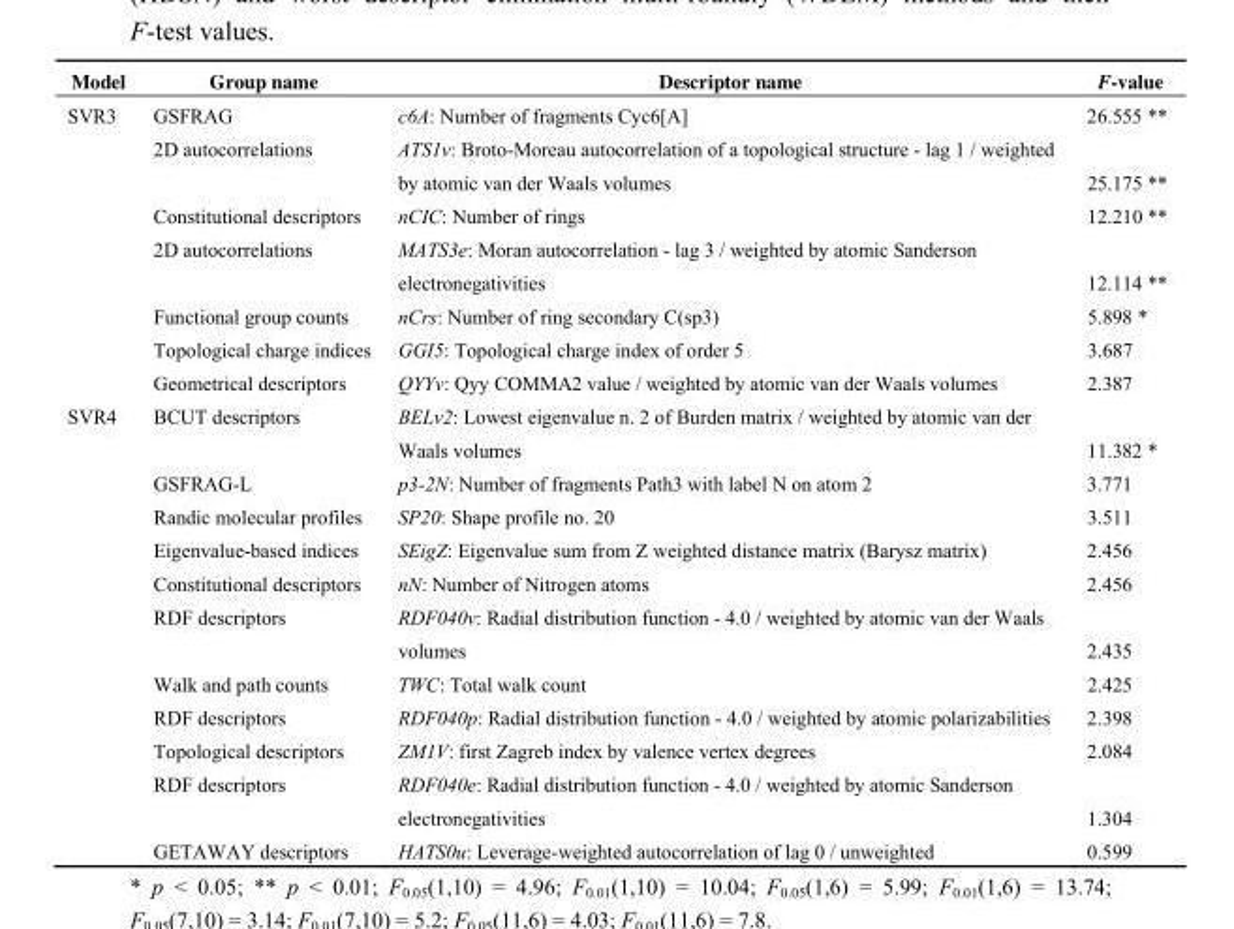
<table><thead><tr><td>Model</td><td>Group name</td><td>Descriptor name</td><td>F-value</td></tr></thead><tbody><tr><td rowspan="7">SVR3</td><td>GSFRAG</td><td>c6A: Number of fragments Cyc6[A]</td><td>26.555 **</td></tr><tr><td>2D autocorrelations</td><td>ATS1v: Broto-Moreau autocorrelation of a topological structure - lag 1 / weighted by atomic van der Waals volumes</td><td>25.175 **</td></tr><tr><td>Constitutional descriptors</td><td>nCIC: Number of rings</td><td>12.210 **</td></tr><tr><td>2D autocorrelations</td><td>MATS3e: Moran autocorrelation - lag 3 / weighted by atomic Sanderson electronegativities</td><td>12.114 **</td></tr><tr><td>Functional group counts</td><td>nCrs: Number of ring secondary C(sp3)</td><td>5.898 *</td></tr><tr><td>Topological charge indices</td><td>GGI5: Topological charge index of order 5</td><td>3.687</td></tr><tr><td>Geometrical descriptors</td><td>QYYv: Qyy COMMA2 value / weighted by atomic van der Waals volumes</td><td>2.387</td></tr><tr><td rowspan="11">SVR4</td><td>BCUT descriptors</td><td>BELv2: Lowest eigenvalue n. 2 of Burden matrix / weighted by atomic van der Waals volumes</td><td>11.382 *</td></tr><tr><td>GSFRAG-L</td><td>p3-2N: Number of fragments Path3 with label N on atom 2</td><td>3.771</td></tr><tr><td>Randic molecular profiles</td><td>SP20: Shape profile no. 20</td><td>3.511</td></tr><tr><td>Eigenvalue-based indices</td><td>SEigZ: Eigenvalue sum from Z weighted distance matrix (Barysz matrix)</td><td>2.456</td></tr><tr><td>Constitutional descriptors</td><td>nN: Number of Nitrogen atoms</td><td>2.456</td></tr><tr><td>RDF descriptors</td><td>RDF040v: Radial distribution function - 4.0 / weighted by atomic van der Waals volumes</td><td>2.435</td></tr><tr><td>Walk and path counts</td><td>TWC: Total walk count</td><td>2.425</td></tr><tr><td>RDF descriptors</td><td>RDF040p: Radial distribution function - 4.0 / weighted by atomic polarizabilities</td><td>2.398</td></tr><tr><td>Topological descriptors</td><td>ZM1V: first Zagreb index by valence vertex degrees</td><td>2.084</td></tr><tr><td>RDF descriptors</td><td>RDF040e: Radial distribution function - 4.0 / weighted by atomic Sanderson electronegativities</td><td>1.304</td></tr><tr><td>GETAWAY descriptors</td><td>HATS0u: Leverage-weighted autocorrelation of lag 0 / unweighted</td><td>0.599</td></tr></tbody></table>